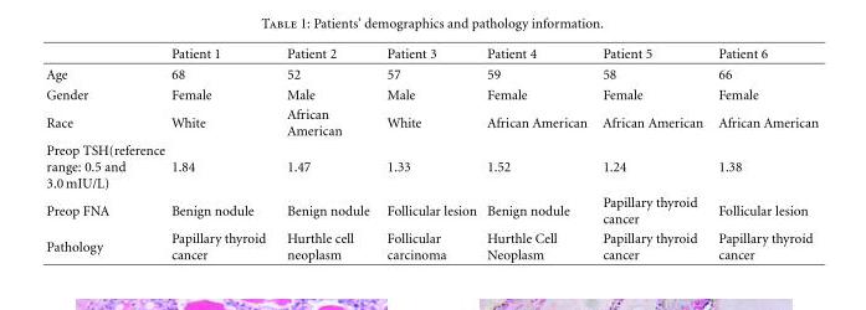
<table><thead><tr><td></td><td>Patient 1</td><td>Patient 2</td><td>Patient 3</td><td>Patient 4</td><td>Patient 5</td><td>Patient 6</td></tr></thead><tbody><tr><td>Age</td><td>68</td><td>52</td><td>57</td><td>59</td><td>58</td><td>66</td></tr><tr><td>Gender</td><td>Female</td><td>Male</td><td>Male</td><td>Female</td><td>Female</td><td>Female</td></tr><tr><td>Race</td><td>White</td><td>African American</td><td>White</td><td>African American</td><td>African American</td><td>African American</td></tr><tr><td>Preop TSH(reference range: 0.5 and 3.0 mIU/L)</td><td>1.84</td><td>1.47</td><td>1.33</td><td>1.52</td><td>1.24</td><td>1.38</td></tr><tr><td>Preop FNA</td><td>Benign nodule</td><td>Benign nodule</td><td>Follicular lesion</td><td>Benign nodule</td><td>Papillary thyroid cancer</td><td>Follicular lesion</td></tr><tr><td>Pathology</td><td>Papillary thyroid cancer</td><td>Hurthle cell neoplasm</td><td>Follicular carcinoma</td><td>Hurthle Cell Neoplasm</td><td>Papillary thyroid cancer</td><td>Papillary thyroid cancer</td></tr></tbody></table>